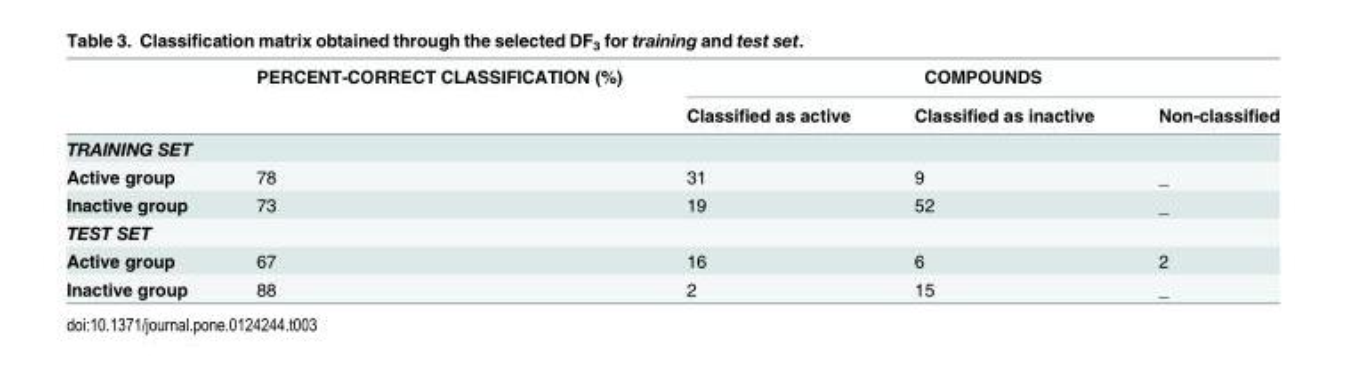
<table><thead><tr><td rowspan="2"></td><td rowspan="2">PERCENT-CORRECT CLASSIFICATION (%)</td><td colspan="3">COMPOUNDS</td></tr><tr><td>Classified as active</td><td>Classified as inactive</td><td>Non-classified</td></tr></thead><tbody><tr><td colspan="5">TRAINING SET</td></tr><tr><td>Active group</td><td>78</td><td>31</td><td>9</td><td>_</td></tr><tr><td>Inactive group</td><td>73</td><td>19</td><td>52</td><td>_</td></tr><tr><td colspan="5">TEST SET</td></tr><tr><td>Active group</td><td>67</td><td>16</td><td>6</td><td>2</td></tr><tr><td>Inactive group</td><td>88</td><td>2</td><td>15</td><td>_</td></tr></tbody></table>